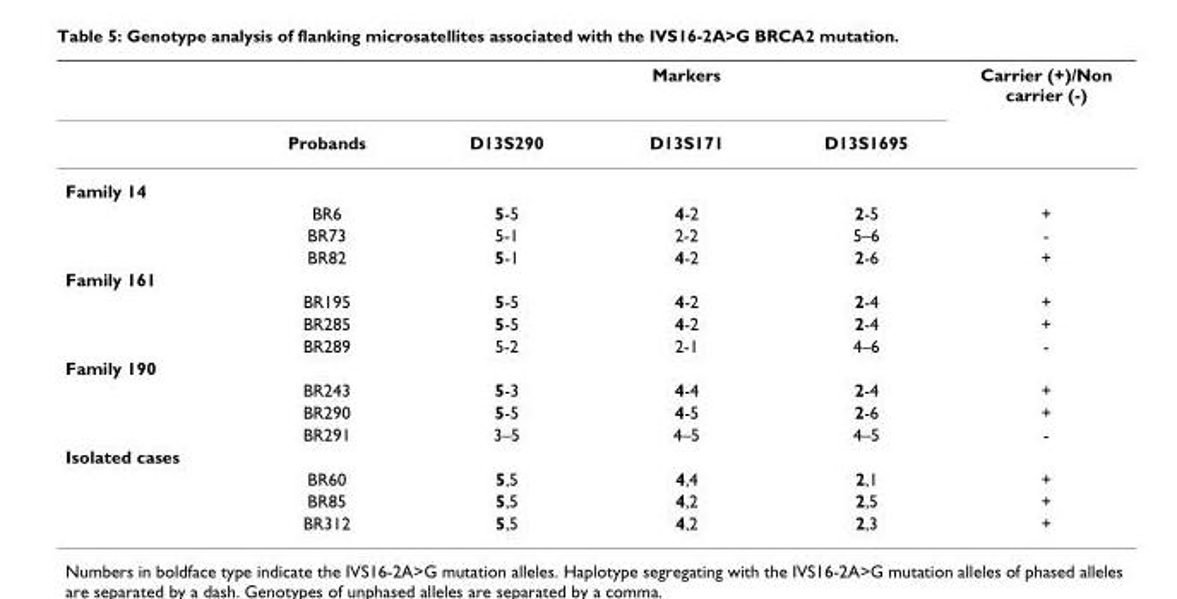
<table><thead><tr><td rowspan="2"></td><td rowspan="2">Probands</td><td colspan="3">Markers</td><td rowspan="2">Carrier (+)/Non carrier (-)</td></tr><tr><td>D13S290</td><td>D13S171</td><td>D13S1695</td></tr></thead><tbody><tr><td colspan="6">Family 14</td></tr><tr><td></td><td>BR6</td><td>5-5</td><td>4-2</td><td>2-5</td><td>+</td></tr><tr><td></td><td>BR73</td><td>5-1</td><td>2-2</td><td>5–6</td><td>-</td></tr><tr><td></td><td>BR82</td><td>5-1</td><td>4-2</td><td>2-6</td><td>+</td></tr><tr><td colspan="6">Family 161</td></tr><tr><td></td><td>BR195</td><td>5-5</td><td>4-2</td><td>2-4</td><td>+</td></tr><tr><td></td><td>BR285</td><td>5-5</td><td>4-2</td><td>2-4</td><td>+</td></tr><tr><td></td><td>BR289</td><td>5-2</td><td>2-1</td><td>4–6</td><td>-</td></tr><tr><td colspan="6">Family 190</td></tr><tr><td></td><td>BR243</td><td>5-3</td><td>4-4</td><td>2-4</td><td>+</td></tr><tr><td></td><td>BR290</td><td>5-5</td><td>4-5</td><td>2-6</td><td>+</td></tr><tr><td></td><td>BR291</td><td>3–5</td><td>4–5</td><td>4–5</td><td>-</td></tr><tr><td colspan="6">Isolated cases</td></tr><tr><td></td><td>BR60</td><td>5,5</td><td>4,4</td><td>2,1</td><td>+</td></tr><tr><td></td><td>BR85</td><td>5,5</td><td>4,2</td><td>2,5</td><td>+</td></tr><tr><td></td><td>BR312</td><td>5,5</td><td>4,2</td><td>2,3</td><td>+</td></tr></tbody></table>